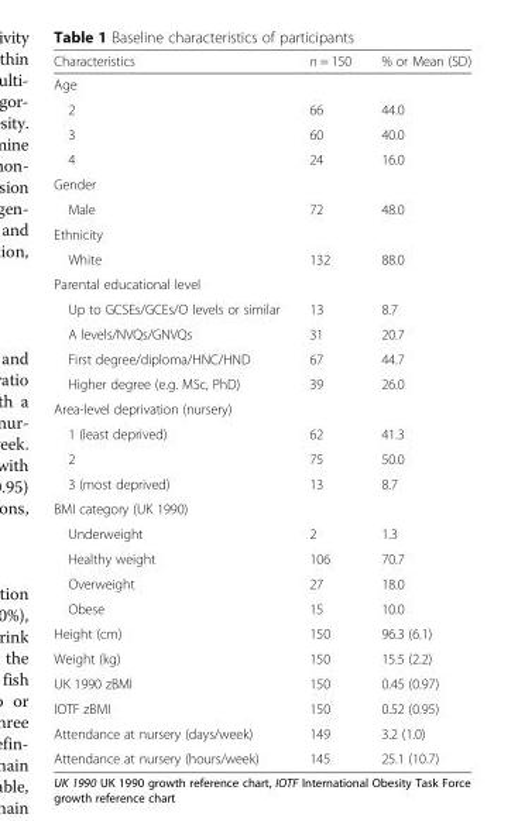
<table><thead><tr><td>Characteristics</td><td>n = 150</td><td>% or Mean (SD)</td></tr></thead><tbody><tr><td colspan="3">Age</td></tr><tr><td>2</td><td>66</td><td>44.0</td></tr><tr><td>3</td><td>60</td><td>40.0</td></tr><tr><td>4</td><td>24</td><td>16.0</td></tr><tr><td colspan="3">Gender</td></tr><tr><td>Male</td><td>72</td><td>48.0</td></tr><tr><td colspan="3">Ethnicity</td></tr><tr><td>White</td><td>132</td><td>88.0</td></tr><tr><td colspan="3">Parental educational level</td></tr><tr><td>Up to GCSEs/GCEs/O levels or similar</td><td>13</td><td>8.7</td></tr><tr><td>A levels/NVQs/GNVQs</td><td>31</td><td>20.7</td></tr><tr><td>First degree/diploma/HNC/HND</td><td>67</td><td>44.7</td></tr><tr><td>Higher degree (e.g. MSc, PhD)</td><td>39</td><td>26.0</td></tr><tr><td colspan="3">Area-level deprivation (nursery)</td></tr><tr><td>1 (least deprived)</td><td>62</td><td>41.3</td></tr><tr><td>2</td><td>75</td><td>50.0</td></tr><tr><td>3 (most deprived)</td><td>13</td><td>8.7</td></tr><tr><td colspan="3">BMI category (UK 1990)</td></tr><tr><td>Underweight</td><td>2</td><td>1.3</td></tr><tr><td>Healthy weight</td><td>106</td><td>70.7</td></tr><tr><td>Overweight</td><td>27</td><td>18.0</td></tr><tr><td>Obese</td><td>15</td><td>10.0</td></tr><tr><td>Height (cm)</td><td>150</td><td>96.3 (6.1)</td></tr><tr><td>Weight (kg)</td><td>150</td><td>15.5 (2.2)</td></tr><tr><td>UK 1990 zBMI</td><td>150</td><td>0.45 (0.97)</td></tr><tr><td>IOTF zBMI</td><td>150</td><td>0.52 (0.95)</td></tr><tr><td>Attendance at nursery (days/week)</td><td>149</td><td>3.2 (1.0)</td></tr><tr><td>Attendance at nursery (hours/week)</td><td>145</td><td>25.1 (10.7)</td></tr></tbody></table>